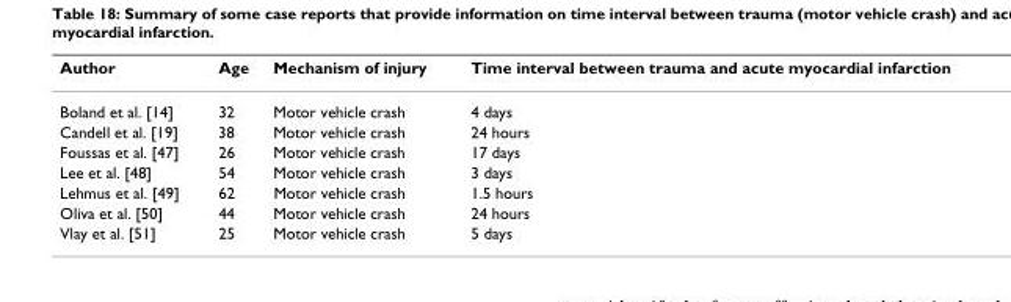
<table><thead><tr><td>Author</td><td>Age</td><td>Mechanism of injury</td><td>Time interval between trauma and acute myocardial infarction</td></tr></thead><tbody><tr><td>Boland et al. [14]</td><td>32</td><td>Motor vehicle crash</td><td>4 days</td></tr><tr><td>Candell et al. [19]</td><td>38</td><td>Motor vehicle crash</td><td>24 hours</td></tr><tr><td>Foussas et al. [47]</td><td>26</td><td>Motor vehicle crash</td><td>17 days</td></tr><tr><td>Lee et al. [48]</td><td>54</td><td>Motor vehicle crash</td><td>3 days</td></tr><tr><td>Lehmus et al. [49]</td><td>62</td><td>Motor vehicle crash</td><td>1.5 hours</td></tr><tr><td>Oliva et al. [50]</td><td>44</td><td>Motor vehicle crash</td><td>24 hours</td></tr><tr><td>Vlay et al. [51]</td><td>25</td><td>Motor vehicle crash</td><td>5 days</td></tr></tbody></table>